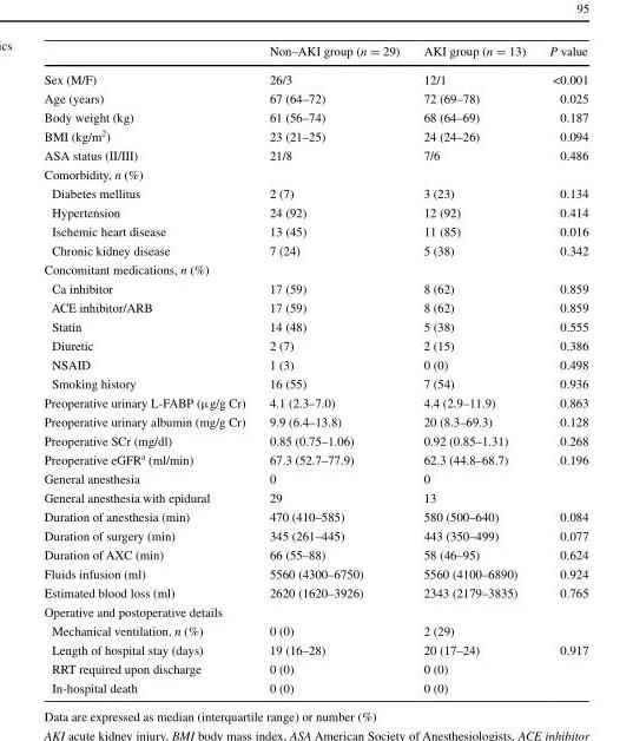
<table><thead><tr><td></td><td>Non–AKI group (n = 29)</td><td>AKI group (n = 13)</td><td>P value</td></tr></thead><tbody><tr><td>Sex (M/F)</td><td>26/3</td><td>12/1</td><td>&lt;0.001</td></tr><tr><td>Age (years)</td><td>67 (64–72)</td><td>72 (69–78)</td><td>0.025</td></tr><tr><td>Body weight (kg)</td><td>61 (56–74)</td><td>68 (64–69)</td><td>0.187</td></tr><tr><td>BMI (kg/m<sup>2</sup>)</td><td>23 (21–25)</td><td>24 (24–26)</td><td>0.094</td></tr><tr><td>ASA status (II/III)</td><td>21/8</td><td>7/6</td><td>0.486</td></tr><tr><td colspan="4">Comorbidity, n (%)</td></tr><tr><td>Diabetes mellitus</td><td>2 (7)</td><td>3 (23)</td><td>0.134</td></tr><tr><td>Hypertension</td><td>24 (92)</td><td>12 (92)</td><td>0.414</td></tr><tr><td>Ischemic heart disease</td><td>13 (45)</td><td>11 (85)</td><td>0.016</td></tr><tr><td>Chronic kidney disease</td><td>7 (24)</td><td>5 (38)</td><td>0.342</td></tr><tr><td colspan="4">Concomitant medications, n (%)</td></tr><tr><td>Ca inhibitor</td><td>17 (59)</td><td>8 (62)</td><td>0.859</td></tr><tr><td>ACE inhibitor/ARB</td><td>17 (59)</td><td>8 (62)</td><td>0.859</td></tr><tr><td>Statin</td><td>14 (48)</td><td>5 (38)</td><td>0.555</td></tr><tr><td>Diuretic</td><td>2 (7)</td><td>2 (15)</td><td>0.386</td></tr><tr><td>NSAID</td><td>1 (3)</td><td>0 (0)</td><td>0.498</td></tr><tr><td>Smoking history</td><td>16 (55)</td><td>7 (54)</td><td>0.936</td></tr><tr><td>Preoperative urinary L-FABP (μg/g Cr)</td><td>4.1 (2.3–7.0)</td><td>4.4 (2.9–11.9)</td><td>0.863</td></tr><tr><td>Preoperative urinary albumin (mg/g Cr)</td><td>9.9 (6.4–13.8)</td><td>20 (8.3–69.3)</td><td>0.128</td></tr><tr><td>Preoperative SCr (mg/dl)</td><td>0.85 (0.75–1.06)</td><td>0.92 (0.85–1.31)</td><td>0.268</td></tr><tr><td>Preoperative eGFR<sup>a</sup> (ml/min)</td><td>67.3 (52.7–77.9)</td><td>62.3 (44.8–68.7)</td><td>0.196</td></tr><tr><td>General anesthesia</td><td>0</td><td>0</td><td></td></tr><tr><td>General anesthesia with epidural</td><td>29</td><td>13</td><td></td></tr><tr><td>Duration of anesthesia (min)</td><td>470 (410–585)</td><td>580 (500–640)</td><td>0.084</td></tr><tr><td>Duration of surgery (min)</td><td>345 (261–445)</td><td>443 (350–499)</td><td>0.077</td></tr><tr><td>Duration of AXC (min)</td><td>66 (55–88)</td><td>58 (46–95)</td><td>0.624</td></tr><tr><td>Fluids infusion (ml)</td><td>5560 (4300–6750)</td><td>5560 (4100–6890)</td><td>0.924</td></tr><tr><td>Estimated blood loss (ml)</td><td>2620 (1620–3926)</td><td>2343 (2179–3835)</td><td>0.765</td></tr><tr><td colspan="4">Operative and postoperative details</td></tr><tr><td>Mechanical ventilation, n (%)</td><td>0 (0)</td><td>2 (29)</td><td></td></tr><tr><td>Length of hospital stay (days)</td><td>19 (16–28)</td><td>20 (17–24)</td><td>0.917</td></tr><tr><td>RRT required upon discharge</td><td>0 (0)</td><td>0 (0)</td><td></td></tr><tr><td>In-hospital death</td><td>0 (0)</td><td>0 (0)</td><td></td></tr></tbody></table>